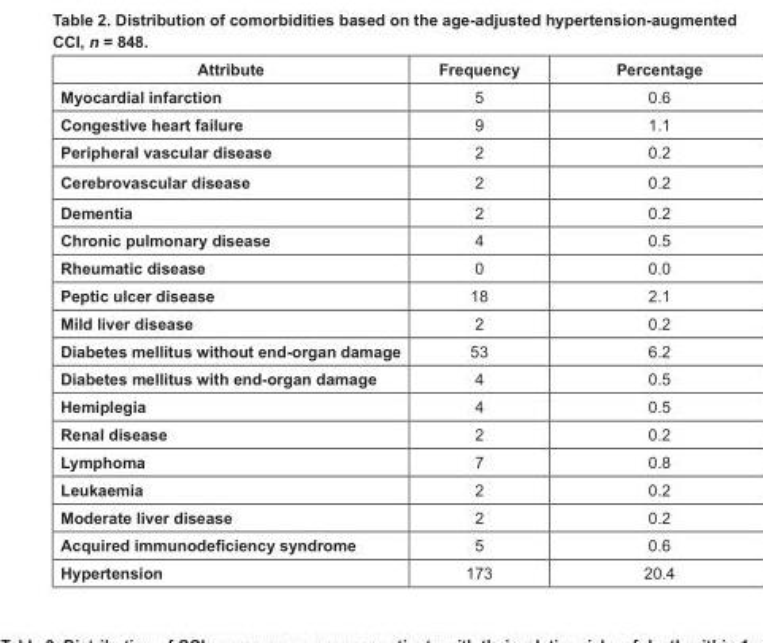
<table><thead><tr><td>Attribute</td><td>Frequency</td><td>Percentage</td></tr></thead><tbody><tr><td>Myocardial infarction</td><td>5</td><td>0.6</td></tr><tr><td>Congestive heart failure</td><td>9</td><td>1.1</td></tr><tr><td>Peripheral vascular disease</td><td>2</td><td>0.2</td></tr><tr><td>Cerebrovascular disease</td><td>2</td><td>0.2</td></tr><tr><td>Dementia</td><td>2</td><td>0.2</td></tr><tr><td>Chronic pulmonary disease</td><td>4</td><td>0.5</td></tr><tr><td>Rheumatic disease</td><td>0</td><td>0.0</td></tr><tr><td>Peptic ulcer disease</td><td>18</td><td>2.1</td></tr><tr><td>Mild liver disease</td><td>2</td><td>0.2</td></tr><tr><td>Diabetes mellitus without end-organ damage</td><td>53</td><td>6.2</td></tr><tr><td>Diabetes mellitus with end-organ damage</td><td>4</td><td>0.5</td></tr><tr><td>Hemiplegia</td><td>4</td><td>0.5</td></tr><tr><td>Renal disease</td><td>2</td><td>0.2</td></tr><tr><td>Lymphoma</td><td>7</td><td>0.8</td></tr><tr><td>Leukaemia</td><td>2</td><td>0.2</td></tr><tr><td>Moderate liver disease</td><td>2</td><td>0.2</td></tr><tr><td>Acquired immunodeficiency syndrome</td><td>5</td><td>0.6</td></tr><tr><td>Hypertension</td><td>173</td><td>20.4</td></tr></tbody></table>